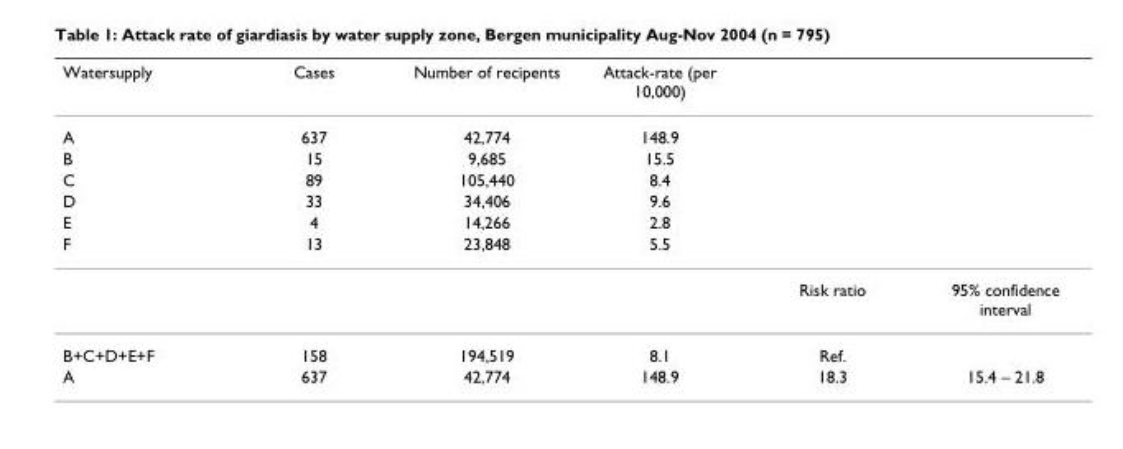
<table><thead><tr><td>Watersupply</td><td>Cases</td><td>Number of recipents</td><td>Attack-rate (per 10,000)</td><td></td><td></td></tr></thead><tbody><tr><td>A</td><td>637</td><td>42,774</td><td>148.9</td><td></td><td></td></tr><tr><td>B</td><td>15</td><td>9,685</td><td>15.5</td><td></td><td></td></tr><tr><td>C</td><td>89</td><td>105,440</td><td>8.4</td><td></td><td></td></tr><tr><td>D</td><td>33</td><td>34,406</td><td>9.6</td><td></td><td></td></tr><tr><td>E</td><td>4</td><td>14,266</td><td>2.8</td><td></td><td></td></tr><tr><td rowspan="2">F</td><td>13</td><td>23,848</td><td>5.5</td><td></td><td></td></tr><tr><td></td><td></td><td></td><td>Risk ratio</td><td>95% confidence interval</td></tr><tr><td>B+C+D+E+F</td><td>158</td><td>194,519</td><td>8.1</td><td>Ref.</td><td></td></tr><tr><td>A</td><td>637</td><td>42,774</td><td>148.9</td><td>18.3</td><td>15.4 – 21.8</td></tr></tbody></table>